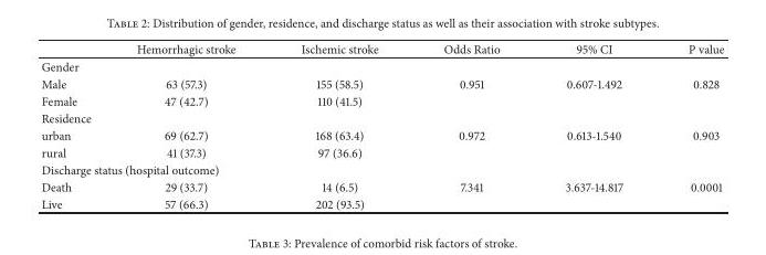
<table><thead><tr><td></td><td>Hemorrhagic stroke</td><td>Ischemic stroke</td><td>Odds Ratio</td><td>95% CI</td><td>P value</td></tr></thead><tbody><tr><td colspan="6">Gender</td></tr><tr><td>Male</td><td>63 (57.3)</td><td>155 (58.5)</td><td>0.951</td><td>0.607-1.492</td><td>0.828</td></tr><tr><td>Female</td><td>47 (42.7)</td><td>110 (41.5)</td><td></td><td></td><td></td></tr><tr><td colspan="6">Residence</td></tr><tr><td>urban</td><td>69 (62.7)</td><td>168 (63.4)</td><td>0.972</td><td>0.613-1.540</td><td>0.903</td></tr><tr><td>rural</td><td>41 (37.3)</td><td>97 (36.6)</td><td></td><td></td><td></td></tr><tr><td colspan="6">Discharge status (hospital outcome)</td></tr><tr><td>Death</td><td>29 (33.7)</td><td>14 (6.5)</td><td>7.341</td><td>3.637-14.817</td><td>0.0001</td></tr><tr><td>Live</td><td>57 (66.3)</td><td>202 (93.5)</td><td></td><td></td><td></td></tr></tbody></table>